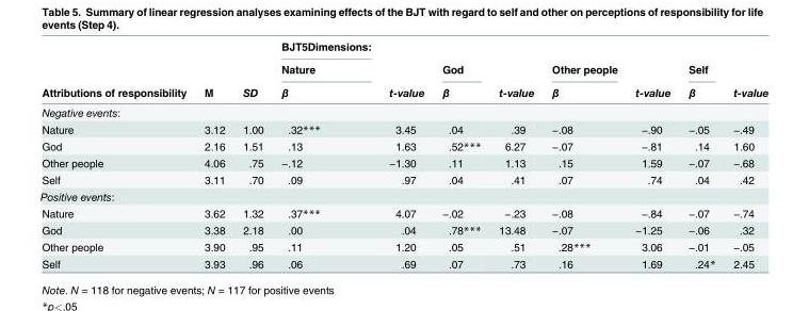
<table><thead><tr><td rowspan="3">Attributions of responsibility</td><td rowspan="3">M</td><td rowspan="3">SD</td><td rowspan="3">BJT5Dimensions: Nature β</td><td rowspan="3">t-value</td><td rowspan="3">God β</td><td rowspan="3">t-value</td><td rowspan="3">Other people β</td><td rowspan="3">t-value</td><td rowspan="3">Self β</td><td rowspan="3">t-value</td></tr><tr></tr><tr></tr></thead><tbody><tr><td colspan="11">Negative events:</td></tr><tr><td>Nature</td><td>3.12</td><td>1.00</td><td>.32***</td><td>3.45</td><td>.04</td><td>.39</td><td>−.08</td><td>−.90</td><td>−.05</td><td>−.49</td></tr><tr><td>God</td><td>2.16</td><td>1.51</td><td>.13</td><td>1.63</td><td>.52***</td><td>6.27</td><td>−.07</td><td>−.81</td><td>.14</td><td>1.60</td></tr><tr><td>Other people</td><td>4.06</td><td>.75</td><td>−.12</td><td>−1.30</td><td>.11</td><td>1.13</td><td>.15</td><td>1.59</td><td>−.07</td><td>−.68</td></tr><tr><td>Self</td><td>3.11</td><td>.70</td><td>.09</td><td>.97</td><td>.04</td><td>.41</td><td>.07</td><td>.74</td><td>.04</td><td>.42</td></tr><tr><td colspan="11">Positive events:</td></tr><tr><td>Nature</td><td>3.62</td><td>1.32</td><td>.37***</td><td>4.07</td><td>−.02</td><td>−.23</td><td>−.08</td><td>−.84</td><td>−.07</td><td>−.74</td></tr><tr><td>God</td><td>3.38</td><td>2.18</td><td>.00</td><td>.04</td><td>.78***</td><td>13.48</td><td>−.07</td><td>−1.25</td><td>−.06</td><td>.32</td></tr><tr><td>Other people</td><td>3.90</td><td>.95</td><td>.11</td><td>1.20</td><td>.05</td><td>.51</td><td>.28***</td><td>3.06</td><td>−.01</td><td>−.05</td></tr><tr><td>Self</td><td>3.93</td><td>.96</td><td>.06</td><td>.69</td><td>.07</td><td>.73</td><td>.16</td><td>1.69</td><td>.24*</td><td>2.45</td></tr></tbody></table>